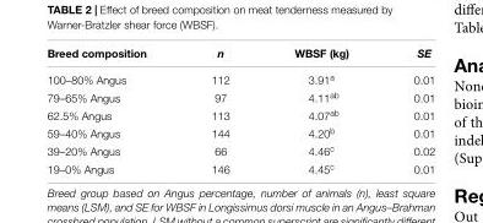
<table><thead><tr><td>Breed composition</td><td>n</td><td>WBSF (kg)</td><td>SE</td></tr></thead><tbody><tr><td>100–80% Angus</td><td>112</td><td>3.91<sup>a</sup></td><td>0.01</td></tr><tr><td>79–65% Angus</td><td>97</td><td>4.11<sup>ab</sup></td><td>0.01</td></tr><tr><td>62.5% Angus</td><td>113</td><td>4.07<sup>ab</sup></td><td>0.01</td></tr><tr><td>59–40% Angus</td><td>144</td><td>4.20<sup>b</sup></td><td>0.01</td></tr><tr><td>39–20% Angus</td><td>66</td><td>4.46<sup>c</sup></td><td>0.02</td></tr><tr><td>19–0% Angus</td><td>146</td><td>4.45<sup>c</sup></td><td>0.01</td></tr></tbody></table>